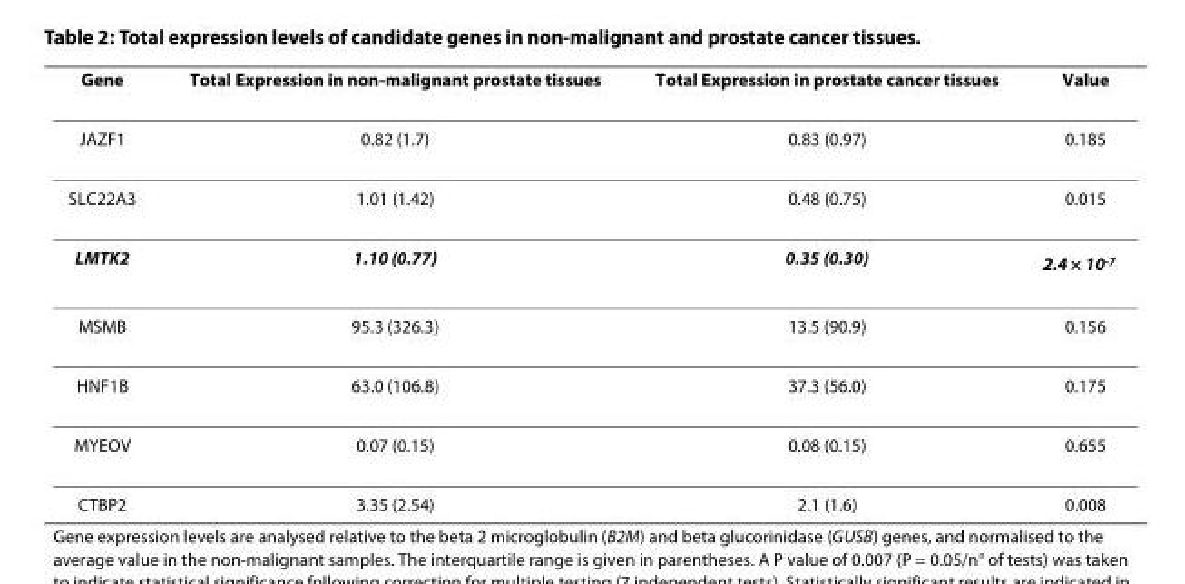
<table><thead><tr><td>Gene</td><td>Total Expression in non-malignant prostate tissues</td><td>Total Expression in prostate cancer tissues</td><td>Value</td></tr></thead><tbody><tr><td>JAZF1</td><td>0.82 (1.7)</td><td>0.83 (0.97)</td><td>0.185</td></tr><tr><td>SLC22A3</td><td>1.01 (1.42)</td><td>0.48 (0.75)</td><td>0.015</td></tr><tr><td>LMTK2</td><td>1.10 (0.77)</td><td>0.35 (0.30)</td><td>2.4 × 10<sup>-7</sup></td></tr><tr><td>MSMB</td><td>95.3 (326.3)</td><td>13.5 (90.9)</td><td>0.156</td></tr><tr><td>HNF1B</td><td>63.0 (106.8)</td><td>37.3 (56.0)</td><td>0.175</td></tr><tr><td>MYEOV</td><td>0.07 (0.15)</td><td>0.08 (0.15)</td><td>0.655</td></tr><tr><td>CTBP2</td><td>3.35 (2.54)</td><td>2.1 (1.6)</td><td>0.008</td></tr></tbody></table>